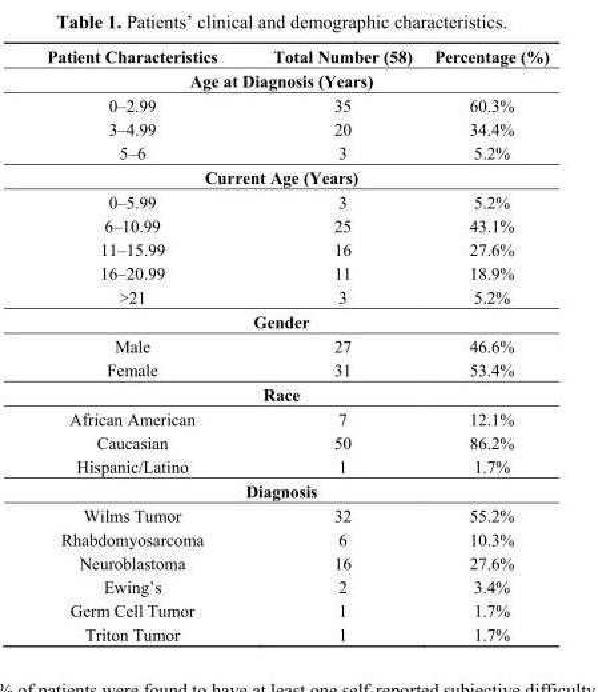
<table><thead><tr><td>Patient Characteristics</td><td>Total Number (58)</td><td>Percentage (%)</td></tr></thead><tbody><tr><td colspan="3">Age at Diagnosis (Years)</td></tr><tr><td>0–2.99</td><td>35</td><td>60.3%</td></tr><tr><td>3–4.99</td><td>20</td><td>34.4%</td></tr><tr><td>5–6</td><td>3</td><td>5.2%</td></tr><tr><td colspan="3">Current Age (Years)</td></tr><tr><td>0–5.99</td><td>3</td><td>5.2%</td></tr><tr><td>6–10.99</td><td>25</td><td>43.1%</td></tr><tr><td>11–15.99</td><td>16</td><td>27.6%</td></tr><tr><td>16–20.99</td><td>11</td><td>18.9%</td></tr><tr><td>&gt;21</td><td>3</td><td>5.2%</td></tr><tr><td colspan="3">Gender</td></tr><tr><td>Male</td><td>27</td><td>46.6%</td></tr><tr><td>Female</td><td>31</td><td>53.4%</td></tr><tr><td colspan="3">Race</td></tr><tr><td>African American</td><td>7</td><td>12.1%</td></tr><tr><td>Caucasian</td><td>50</td><td>86.2%</td></tr><tr><td>Hispanic/Latino</td><td>1</td><td>1.7%</td></tr><tr><td colspan="3">Diagnosis</td></tr><tr><td>Wilms Tumor</td><td>32</td><td>55.2%</td></tr><tr><td>Rhabdomyosarcoma</td><td>6</td><td>10.3%</td></tr><tr><td>Neuroblastoma</td><td>16</td><td>27.6%</td></tr><tr><td>Ewing’s</td><td>2</td><td>3.4%</td></tr><tr><td>Germ Cell Tumor</td><td>1</td><td>1.7%</td></tr><tr><td>Triton Tumor</td><td>1</td><td>1.7%</td></tr></tbody></table>